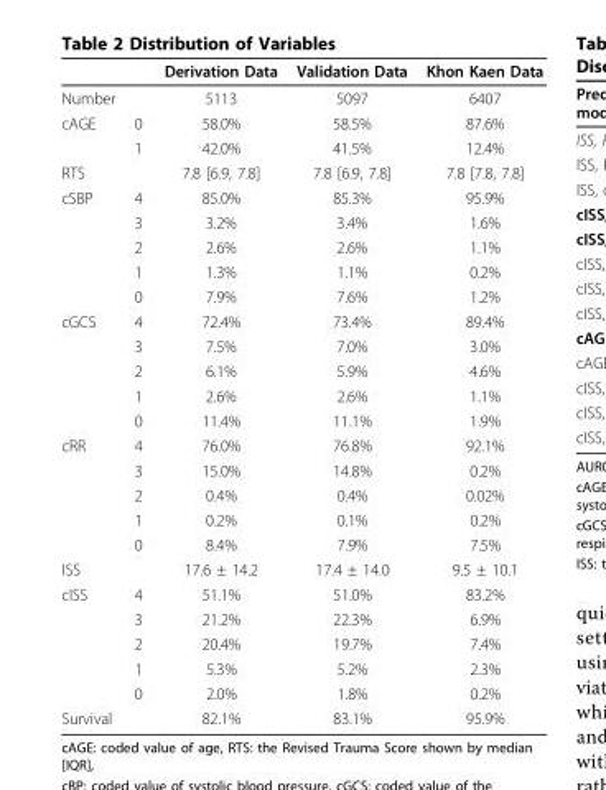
<table><thead><tr><td></td><td></td><td>Derivation Data</td><td>Validation Data</td><td>Khon Kaen Data</td></tr></thead><tbody><tr><td>Number</td><td></td><td>5113</td><td>5097</td><td>6407</td></tr><tr><td rowspan="2">cAGE</td><td>0</td><td>58.0%</td><td>58.5%</td><td>87.6%</td></tr><tr><td>1</td><td>42.0%</td><td>41.5%</td><td>12.4%</td></tr><tr><td>RTS</td><td></td><td>7.8 [6.9, 7.8]</td><td>7.8 [6.9, 7.8]</td><td>7.8 [7.8, 7.8]</td></tr><tr><td rowspan="5">cSBP</td><td>4</td><td>85.0%</td><td>85.3%</td><td>95.9%</td></tr><tr><td>3</td><td>3.2%</td><td>3.4%</td><td>1.6%</td></tr><tr><td>2</td><td>2.6%</td><td>2.6%</td><td>1.1%</td></tr><tr><td>1</td><td>1.3%</td><td>1.1%</td><td>0.2%</td></tr><tr><td>0</td><td>7.9%</td><td>7.6%</td><td>1.2%</td></tr><tr><td rowspan="5">cGCS</td><td>4</td><td>72.4%</td><td>73.4%</td><td>89.4%</td></tr><tr><td>3</td><td>7.5%</td><td>7.0%</td><td>3.0%</td></tr><tr><td>2</td><td>6.1%</td><td>5.9%</td><td>4.6%</td></tr><tr><td>1</td><td>2.6%</td><td>2.6%</td><td>1.1%</td></tr><tr><td>0</td><td>11.4%</td><td>11.1%</td><td>1.9%</td></tr><tr><td rowspan="5">cRR</td><td>4</td><td>76.0%</td><td>76.8%</td><td>92.1%</td></tr><tr><td>3</td><td>15.0%</td><td>14.8%</td><td>0.2%</td></tr><tr><td>2</td><td>0.4%</td><td>0.4%</td><td>0.02%</td></tr><tr><td>1</td><td>0.2%</td><td>0.1%</td><td>0.2%</td></tr><tr><td>0</td><td>8.4%</td><td>7.9%</td><td>7.5%</td></tr><tr><td>ISS</td><td></td><td>17.6 ± 14.2</td><td>17.4 ± 14.0</td><td>9.5 ± 10.1</td></tr><tr><td rowspan="5">cISS</td><td>4</td><td>51.1%</td><td>51.0%</td><td>83.2%</td></tr><tr><td>3</td><td>21.2%</td><td>22.3%</td><td>6.9%</td></tr><tr><td>2</td><td>20.4%</td><td>19.7%</td><td>7.4%</td></tr><tr><td>1</td><td>5.3%</td><td>5.2%</td><td>2.3%</td></tr><tr><td>0</td><td>2.0%</td><td>1.8%</td><td>0.2%</td></tr><tr><td>Survival</td><td></td><td>82.1%</td><td>83.1%</td><td>95.9%</td></tr></tbody></table>